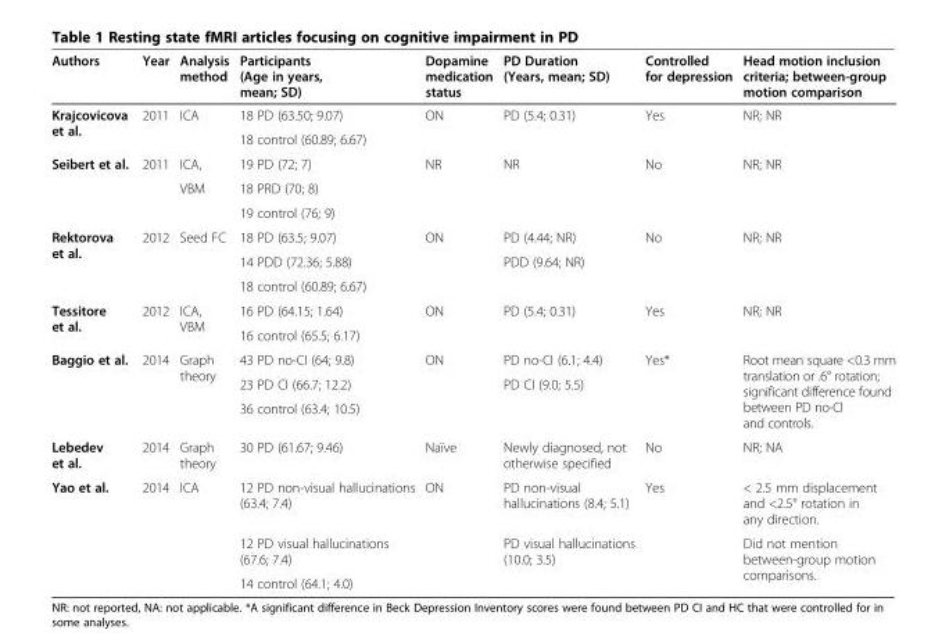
<table><thead><tr><td>Authors</td><td>Year</td><td>Analysis method</td><td>Participants (Age in years, mean; SD)</td><td>Dopamine medication status</td><td>PD Duration (Years, mean; SD)</td><td>Controlled for depression</td><td>Head motion inclusion criteria; between-group motion comparison</td></tr></thead><tbody><tr><td rowspan="2">Krajcovicova et al.</td><td rowspan="2">2011</td><td rowspan="2">ICA</td><td>18 PD (63.50; 9.07)</td><td rowspan="2">ON</td><td rowspan="2">PD (5.4; 0.31)</td><td rowspan="2">Yes</td><td rowspan="2">NR; NR</td></tr><tr><td>18 control (60.89; 6.67)</td></tr><tr><td rowspan="3">Seibert et al.</td><td rowspan="3">2011</td><td>ICA,</td><td>19 PD (72; 7)</td><td rowspan="3">NR</td><td rowspan="3">NR</td><td rowspan="3">No</td><td rowspan="3">NR; NR</td></tr><tr><td rowspan="2">VBM</td><td>18 PRD (70; 8)</td></tr><tr><td>19 control (76; 9)</td></tr><tr><td rowspan="3">Rektorova et al.</td><td rowspan="3">2012</td><td rowspan="3">Seed FC</td><td>18 PD (63.5; 9.07)</td><td rowspan="3">ON</td><td>PD (4.44; NR)</td><td rowspan="3">No</td><td rowspan="3">NR; NR</td></tr><tr><td>14 PDD (72.36; 5.88)</td><td rowspan="2">PDD (9.64; NR)</td></tr><tr><td>18 control (60.89; 6.67)</td></tr><tr><td rowspan="2">Tessitore et al.</td><td rowspan="2">2012</td><td rowspan="2">ICA, VBM</td><td>16 PD (64.15; 1.64)</td><td rowspan="2">ON</td><td rowspan="2">PD (5.4; 0.31)</td><td rowspan="2">Yes</td><td rowspan="2">NR; NR</td></tr><tr><td>16 control (65.5; 6.17)</td></tr><tr><td rowspan="3">Baggio et al.</td><td rowspan="3">2014</td><td rowspan="3">Graph theory</td><td>43 PD no-CI (64; 9.8)</td><td rowspan="3">ON</td><td>PD no-CI (6.1; 4.4)</td><td rowspan="3">Yes*</td><td rowspan="3">Root mean square &lt;0.3 mm translation or .6° rotation; significant difference found between PD no-CI and controls.</td></tr><tr><td>23 PD CI (66.7; 12.2)</td><td rowspan="2">PD CI (9.0; 5.5)</td></tr><tr><td>36 control (63.4; 10.5)</td></tr><tr><td>Lebedev et al.</td><td>2014</td><td>Graph theory</td><td>30 PD (61.67; 9.46)</td><td>Naïve</td><td>Newly diagnosed, not otherwise specified</td><td>No</td><td>NR; NA</td></tr><tr><td rowspan="3">Yao et al.</td><td rowspan="3">2014</td><td rowspan="3">ICA</td><td>12 PD non-visual hallucinations (63.4; 7.4)</td><td rowspan="3">ON</td><td>PD non-visual hallucinations (8.4; 5.1)</td><td rowspan="3">Yes</td><td>&lt; 2.5 mm displacement and &lt;2.5° rotation in any direction.</td></tr><tr><td>12 PD visual hallucinations (67.6; 7.4)</td><td rowspan="2">PD visual hallucinations (10.0; 3.5)</td><td rowspan="2">Did not mention between-group motion comparisons.</td></tr><tr><td>14 control (64.1; 4.0)</td></tr></tbody></table>